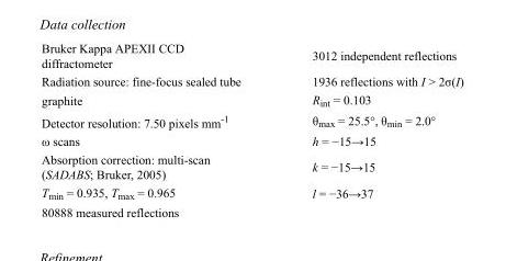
<table><tbody><tr><td>Bruker Kappa APEXII CCD diffractometer</td><td>3012 independent reflections</td></tr><tr><td>Radiation source: fine-focus sealed tube</td><td>1936 reflections with I &gt; 2σ(I)</td></tr><tr><td>graphite</td><td>R<sub>int</sub> = 0.103</td></tr><tr><td>Detector resolution: 7.50 pixels mm<sup>-1</sup></td><td>θ<sub>max</sub> = 25.5°, θ<sub>min</sub> = 2.0°</td></tr><tr><td>ω scans</td><td>h = −15→15</td></tr><tr><td>Absorption correction: multi-scan (SADABS; Bruker, 2005)</td><td>k = −15→15</td></tr><tr><td>T<sub>min</sub> = 0.935, T<sub>max</sub> = 0.965</td><td>l = −36→37</td></tr><tr><td>80888 measured reflections</td><td></td></tr></tbody></table>